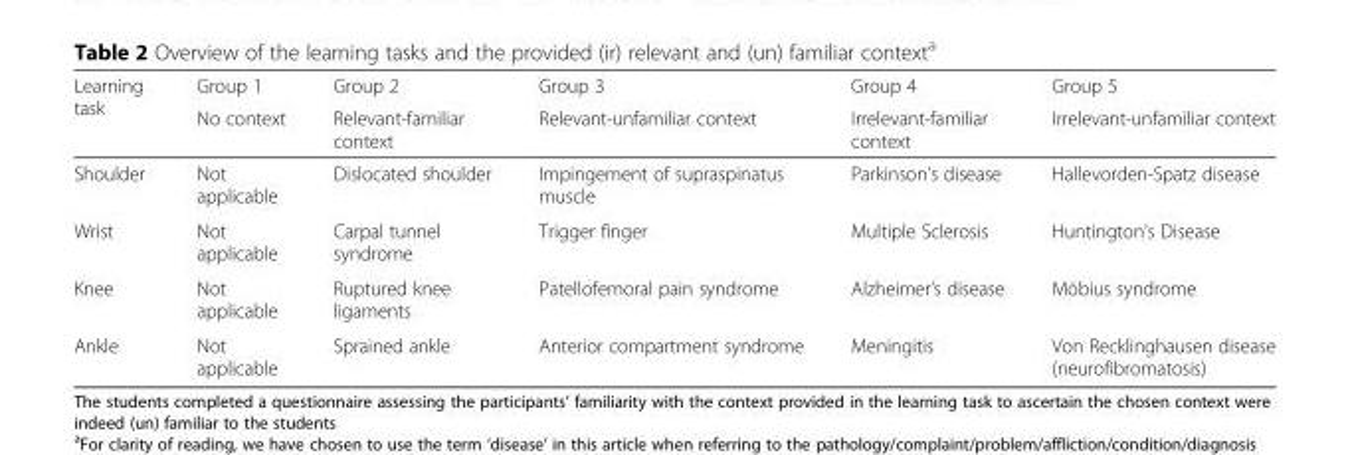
<table><thead><tr><td rowspan="2">Learning task</td><td rowspan="2">Group 1 No context</td><td rowspan="2">Group 2 Relevant-familiar context</td><td rowspan="2">Group 3 Relevant-unfamiliar context</td><td rowspan="2">Group 4 Irrelevant-familiar context</td><td rowspan="2">Group 5 Irrelevant-unfamiliar context</td></tr><tr></tr></thead><tbody><tr><td>Shoulder</td><td>Not applicable</td><td>Dislocated shoulder</td><td>Impingement of supraspinatus muscle</td><td>Parkinson’s disease</td><td>Hallevorden-Spatz disease</td></tr><tr><td>Wrist</td><td>Not applicable</td><td>Carpal tunnel syndrome</td><td>Trigger finger</td><td>Multiple Sclerosis</td><td>Huntington’s Disease</td></tr><tr><td>Knee</td><td>Not applicable</td><td>Ruptured knee ligaments</td><td>Patellofemoral pain syndrome</td><td>Alzheimer’s disease</td><td>Möbius syndrome</td></tr><tr><td>Ankle</td><td>Not applicable</td><td>Sprained ankle</td><td>Anterior compartment syndrome</td><td>Meningitis</td><td>Von Recklinghausen disease (neurofibromatosis)</td></tr></tbody></table>